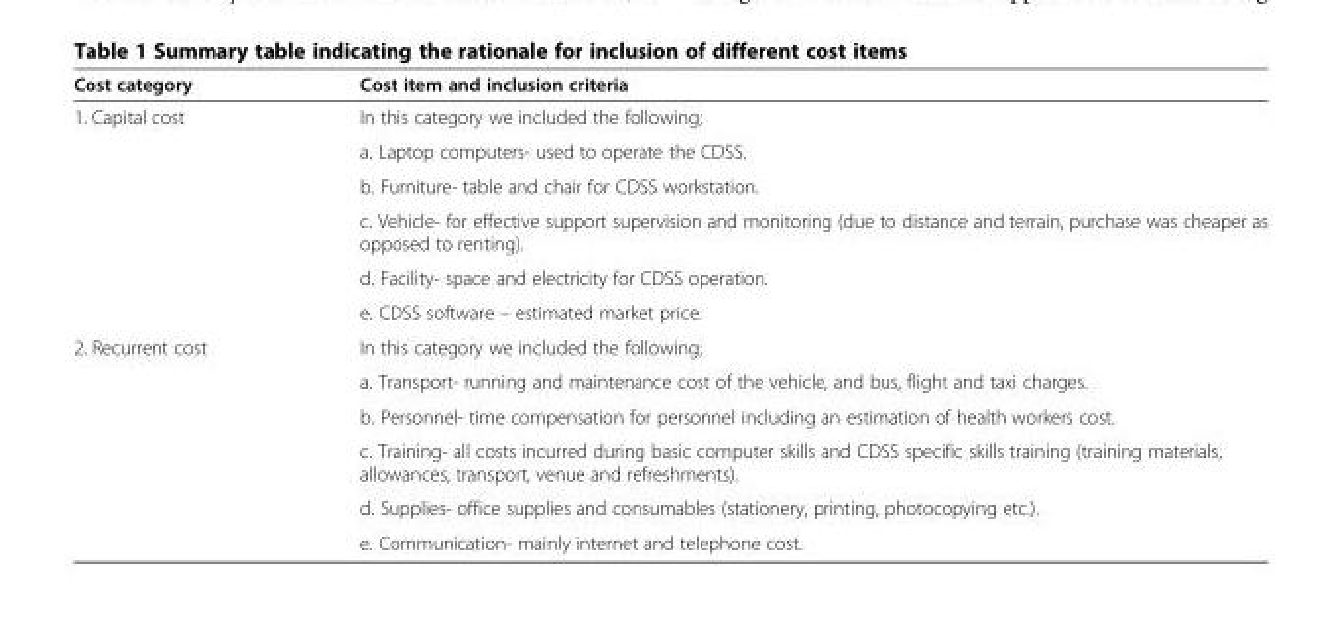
<table><thead><tr><td>Cost category</td><td>Cost item and inclusion criteria</td></tr></thead><tbody><tr><td rowspan="6">1. Capital cost</td><td>In this category we included the following;</td></tr><tr><td>a. Laptop computers- used to operate the CDSS.</td></tr><tr><td>b. Furniture- table and chair for CDSS workstation.</td></tr><tr><td>c. Vehicle- for effective support supervision and monitoring (due to distance and terrain, purchase was cheaper as opposed to renting).</td></tr><tr><td>d. Facility- space and electricity for CDSS operation.</td></tr><tr><td>e. CDSS software – estimated market price.</td></tr><tr><td rowspan="6">2. Recurrent cost</td><td>In this category we included the following;</td></tr><tr><td>a. Transport- running and maintenance cost of the vehicle, and bus, flight and taxi charges.</td></tr><tr><td>b. Personnel- time compensation for personnel including an estimation of health workers cost.</td></tr><tr><td>c. Training- all costs incurred during basic computer skills and CDSS specific skills training (training materials, allowances, transport, venue and refreshments).</td></tr><tr><td>d. Supplies- office supplies and consumables (stationery, printing, photocopying etc.).</td></tr><tr><td>e. Communication- mainly internet and telephone cost.</td></tr></tbody></table>